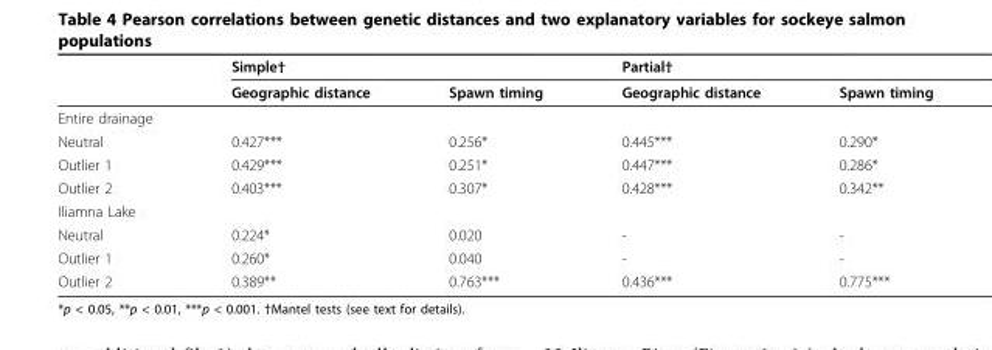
<table><thead><tr><td rowspan="2"></td><td rowspan="2">Simple† Geographic distance</td><td rowspan="2">Spawn timing</td><td rowspan="2">Partial† Geographic distance</td><td rowspan="2">Spawn timing</td></tr><tr></tr></thead><tbody><tr><td colspan="5">Entire drainage</td></tr><tr><td>Neutral</td><td>0.427***</td><td>0.256*</td><td>0.445***</td><td>0.290*</td></tr><tr><td>Outlier 1</td><td>0.429***</td><td>0.251*</td><td>0.447***</td><td>0.286*</td></tr><tr><td>Outlier 2</td><td>0.403***</td><td>0.307*</td><td>0.428***</td><td>0.342**</td></tr><tr><td colspan="5">Iliamna Lake</td></tr><tr><td>Neutral</td><td>0.224*</td><td>0.020</td><td>-</td><td>-</td></tr><tr><td>Outlier 1</td><td>0.260*</td><td>0.040</td><td>-</td><td>-</td></tr><tr><td>Outlier 2</td><td>0.389**</td><td>0.763***</td><td>0.436***</td><td>0.775***</td></tr></tbody></table>